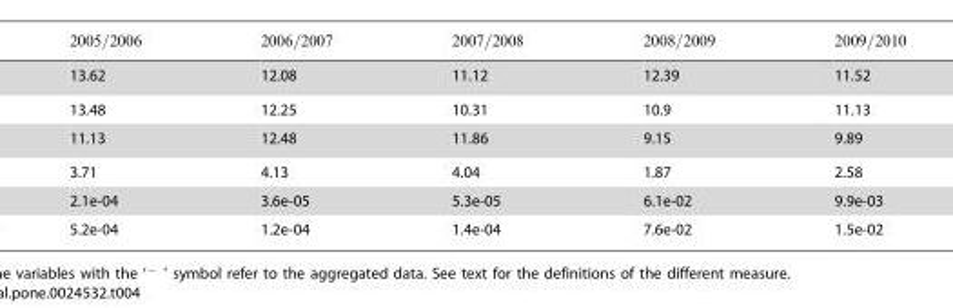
<table><tbody><tr><td>13.62</td><td>12.08</td><td>11.12</td><td>12.39</td><td>11.52</td></tr><tr><td>13.48</td><td>12.25</td><td>10.31</td><td>10.9</td><td>11.13</td></tr><tr><td>11.13</td><td>12.48</td><td>11.86</td><td>9.15</td><td>9.89</td></tr><tr><td>3.71</td><td>4.13</td><td>4.04</td><td>1.87</td><td>2.58</td></tr><tr><td>2.1e-04</td><td>3.6e-05</td><td>5.3e-05</td><td>6.1e-02</td><td>9.9e-03</td></tr><tr><td>5.2e-04</td><td>1.2e-04</td><td>1.4e-04</td><td>7.6e-02</td><td>1.5e-02</td></tr></tbody></table>